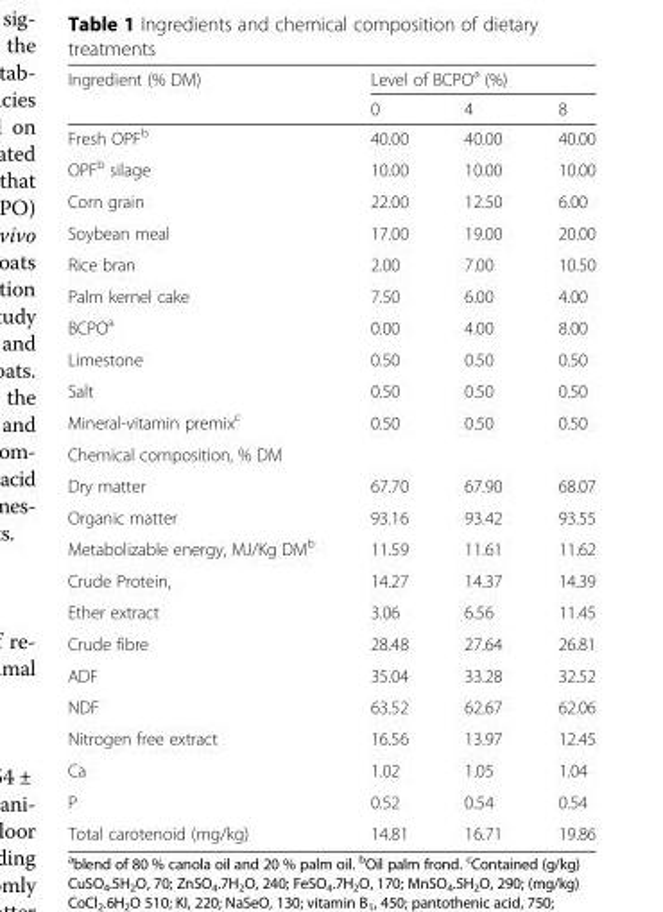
<table><thead><tr><td rowspan="2">Ingredient (% DM)</td><td colspan="3">Level of BCPO<sup>a</sup> (%)</td></tr><tr><td>0</td><td>4</td><td>8</td></tr></thead><tbody><tr><td>Fresh OPF<sup>b</sup></td><td>40.00</td><td>40.00</td><td>40.00</td></tr><tr><td>OPF<sup>b</sup> silage</td><td>10.00</td><td>10.00</td><td>10.00</td></tr><tr><td>Corn grain</td><td>22.00</td><td>12.50</td><td>6.00</td></tr><tr><td>Soybean meal</td><td>17.00</td><td>19.00</td><td>20.00</td></tr><tr><td>Rice bran</td><td>2.00</td><td>7.00</td><td>10.50</td></tr><tr><td>Palm kernel cake</td><td>7.50</td><td>6.00</td><td>4.00</td></tr><tr><td>BCPO<sup>a</sup></td><td>0.00</td><td>4.00</td><td>8.00</td></tr><tr><td>Limestone</td><td>0.50</td><td>0.50</td><td>0.50</td></tr><tr><td>Salt</td><td>0.50</td><td>0.50</td><td>0.50</td></tr><tr><td>Mineral-vitamin premix<sup>c</sup></td><td>0.50</td><td>0.50</td><td>0.50</td></tr><tr><td colspan="4">Chemical composition, % DM</td></tr><tr><td>Dry matter</td><td>67.70</td><td>67.90</td><td>68.07</td></tr><tr><td>Organic matter</td><td>93.16</td><td>93.42</td><td>93.55</td></tr><tr><td>Metabolizable energy, MJ/Kg DM<sup>b</sup></td><td>11.59</td><td>11.61</td><td>11.62</td></tr><tr><td>Crude Protein,</td><td>14.27</td><td>14.37</td><td>14.39</td></tr><tr><td>Ether extract</td><td>3.06</td><td>6.56</td><td>11.45</td></tr><tr><td>Crude fibre</td><td>28.48</td><td>27.64</td><td>26.81</td></tr><tr><td>ADF</td><td>35.04</td><td>33.28</td><td>32.52</td></tr><tr><td>NDF</td><td>63.52</td><td>62.67</td><td>62.06</td></tr><tr><td>Nitrogen free extract</td><td>16.56</td><td>13.97</td><td>12.45</td></tr><tr><td>Ca</td><td>1.02</td><td>1.05</td><td>1.04</td></tr><tr><td>P</td><td>0.52</td><td>0.54</td><td>0.54</td></tr><tr><td>Total carotenoid (mg/kg)</td><td>14.81</td><td>16.71</td><td>19.86</td></tr></tbody></table>